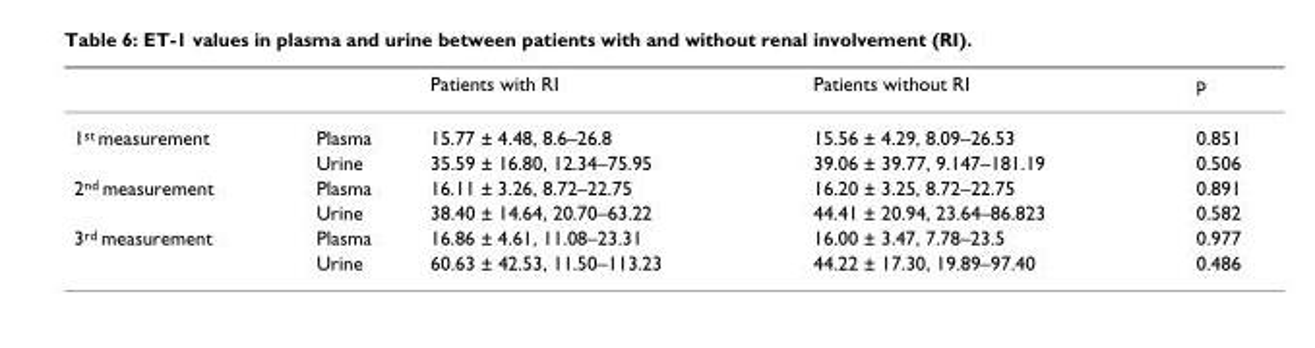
<table><thead><tr><td></td><td></td><td>Patients with RI</td><td>Patients without RI</td><td>p</td></tr></thead><tbody><tr><td rowspan="2">1<sup>st</sup> measurement</td><td>Plasma</td><td>15.77 ± 4.48, 8.6–26.8</td><td>15.56 ± 4.29, 8.09–26.53</td><td>0.851</td></tr><tr><td>Urine</td><td>35.59 ± 16.80, 12.34–75.95</td><td>39.06 ± 39.77, 9.147–181.19</td><td>0.506</td></tr><tr><td rowspan="2">2<sup>nd</sup> measurement</td><td>Plasma</td><td>16.11 ± 3.26, 8.72–22.75</td><td>16.20 ± 3.25, 8.72–22.75</td><td>0.891</td></tr><tr><td>Urine</td><td>38.40 ± 14.64, 20.70–63.22</td><td>44.41 ± 20.94, 23.64–86.823</td><td>0.582</td></tr><tr><td rowspan="2">3<sup>rd</sup> measurement</td><td>Plasma</td><td>16.86 ± 4.61, 11.08–23.31</td><td>16.00 ± 3.47, 7.78–23.5</td><td>0.977</td></tr><tr><td>Urine</td><td>60.63 ± 42.53, 11.50–113.23</td><td>44.22 ± 17.30, 19.89–97.40</td><td>0.486</td></tr></tbody></table>